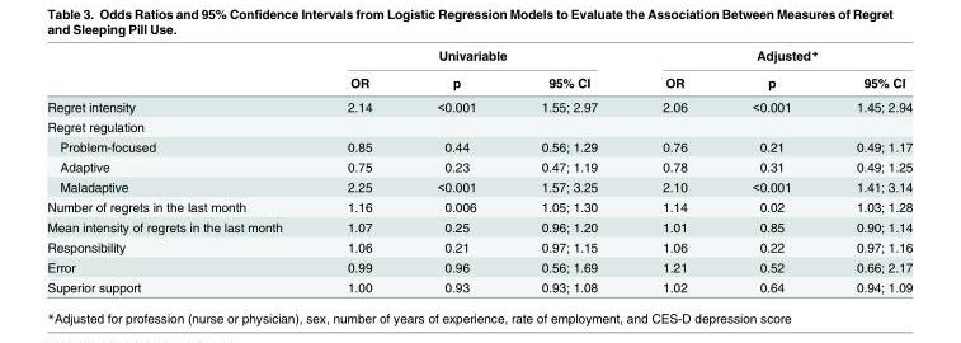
<table><thead><tr><td rowspan="2"></td><td colspan="3">Univariable</td><td colspan="3">Adjusted*</td></tr><tr><td>OR</td><td>p</td><td>95% CI</td><td>OR</td><td>p</td><td>95% CI</td></tr></thead><tbody><tr><td>Regret intensity</td><td>2.14</td><td>&lt;0.001</td><td>1.55; 2.97</td><td>2.06</td><td>&lt;0.001</td><td>1.45; 2.94</td></tr><tr><td colspan="7">Regret regulation</td></tr><tr><td>Problem-focused</td><td>0.85</td><td>0.44</td><td>0.56; 1.29</td><td>0.76</td><td>0.21</td><td>0.49; 1.17</td></tr><tr><td>Adaptive</td><td>0.75</td><td>0.23</td><td>0.47; 1.19</td><td>0.78</td><td>0.31</td><td>0.49; 1.25</td></tr><tr><td>Maladaptive</td><td>2.25</td><td>&lt;0.001</td><td>1.57; 3.25</td><td>2.10</td><td>&lt;0.001</td><td>1.41; 3.14</td></tr><tr><td>Number of regrets in the last month</td><td>1.16</td><td>0.006</td><td>1.05; 1.30</td><td>1.14</td><td>0.02</td><td>1.03; 1.28</td></tr><tr><td>Mean intensity of regrets in the last month</td><td>1.07</td><td>0.25</td><td>0.96; 1.20</td><td>1.01</td><td>0.85</td><td>0.90; 1.14</td></tr><tr><td>Responsibility</td><td>1.06</td><td>0.21</td><td>0.97; 1.15</td><td>1.06</td><td>0.22</td><td>0.97; 1.16</td></tr><tr><td>Error</td><td>0.99</td><td>0.96</td><td>0.56; 1.69</td><td>1.21</td><td>0.52</td><td>0.66; 2.17</td></tr><tr><td>Superior support</td><td>1.00</td><td>0.93</td><td>0.93; 1.08</td><td>1.02</td><td>0.64</td><td>0.94; 1.09</td></tr></tbody></table>